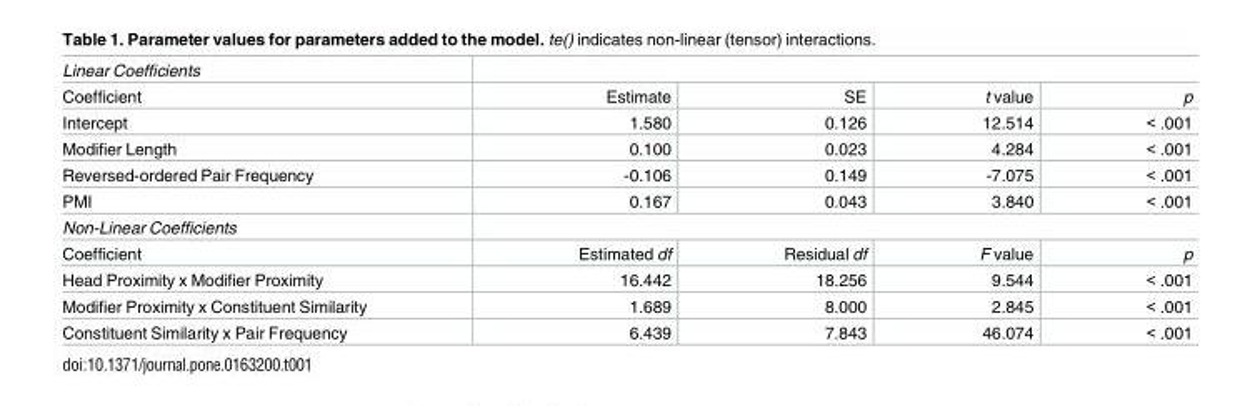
<table><tbody><tr><td colspan="5">Linear Coefficients</td></tr><tr><td>Coefficient</td><td>Estimate</td><td>SE</td><td>t value</td><td>p</td></tr><tr><td>Intercept</td><td>1.580</td><td>0.126</td><td>12.514</td><td>&lt; .001</td></tr><tr><td>Modifier Length</td><td>0.100</td><td>0.023</td><td>4.284</td><td>&lt; .001</td></tr><tr><td>Reversed-ordered Pair Frequency</td><td>-0.106</td><td>0.149</td><td>-7.075</td><td>&lt; .001</td></tr><tr><td>PMI</td><td>0.167</td><td>0.043</td><td>3.840</td><td>&lt; .001</td></tr><tr><td colspan="5">Non-Linear Coefficients</td></tr><tr><td>Coefficient</td><td>Estimated df</td><td>Residual df</td><td>F value</td><td>p</td></tr><tr><td>Head Proximity x Modifier Proximity</td><td>16.442</td><td>18.256</td><td>9.544</td><td>&lt; .001</td></tr><tr><td>Modifier Proximity x Constituent Similarity</td><td>1.689</td><td>8.000</td><td>2.845</td><td>&lt; .001</td></tr><tr><td>Constituent Similarity x Pair Frequency</td><td>6.439</td><td>7.843</td><td>46.074</td><td>&lt; .001</td></tr></tbody></table>